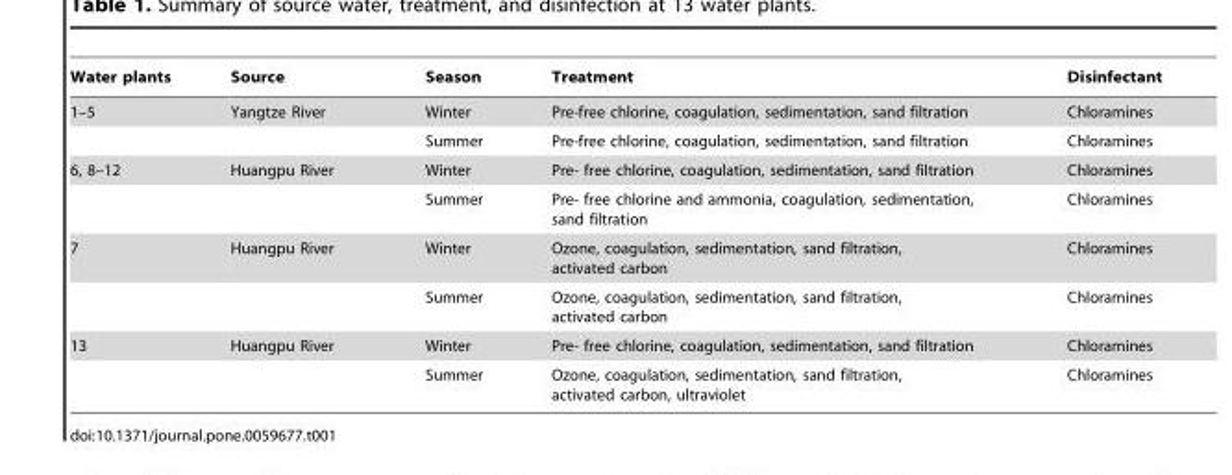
<table><thead><tr><td>Water plants</td><td>Source</td><td>Season</td><td>Treatment</td><td>Disinfectant</td></tr></thead><tbody><tr><td rowspan="2">1–5</td><td>Yangtze River</td><td>Winter</td><td>Pre-free chlorine, coagulation, sedimentation, sand filtration</td><td>Chloramines</td></tr><tr><td></td><td>Summer</td><td>Pre-free chlorine, coagulation, sedimentation, sand filtration</td><td>Chloramines</td></tr><tr><td rowspan="2">6, 8–12</td><td>Huangpu River</td><td>Winter</td><td>Pre- free chlorine, coagulation, sedimentation, sand filtration</td><td>Chloramines</td></tr><tr><td></td><td>Summer</td><td>Pre- free chlorine and ammonia, coagulation, sedimentation, sand filtration</td><td>Chloramines</td></tr><tr><td rowspan="2">7</td><td>Huangpu River</td><td>Winter</td><td>Ozone, coagulation, sedimentation, sand filtration, activated carbon</td><td>Chloramines</td></tr><tr><td></td><td>Summer</td><td>Ozone, coagulation, sedimentation, sand filtration, activated carbon</td><td>Chloramines</td></tr><tr><td rowspan="2">13</td><td>Huangpu River</td><td>Winter</td><td>Pre- free chlorine, coagulation, sedimentation, sand filtration</td><td>Chloramines</td></tr><tr><td></td><td>Summer</td><td>Ozone, coagulation, sedimentation, sand filtration, activated carbon, ultraviolet</td><td>Chloramines</td></tr></tbody></table>